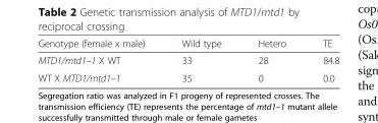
<table><thead><tr><td>Genotype (female x male)</td><td>Wild type</td><td>Hetero</td><td>TE</td></tr></thead><tbody><tr><td>MTD1/mtd1–1 X WT</td><td>33</td><td>28</td><td>84.8</td></tr><tr><td>WT X MTD1/mtd1–1</td><td>35</td><td>0</td><td>0.0</td></tr></tbody></table>